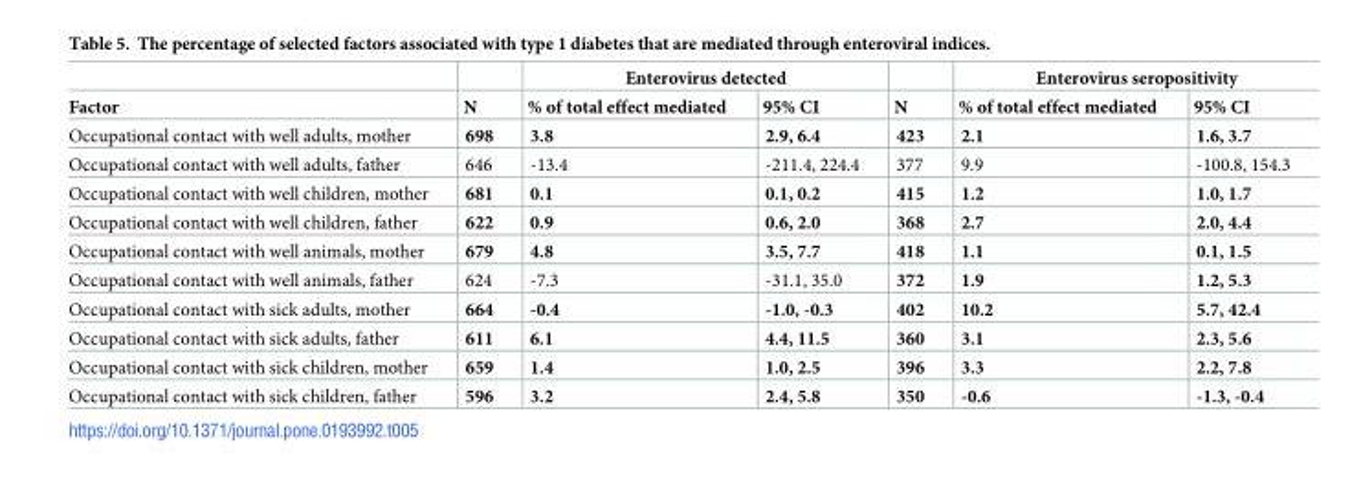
<table><thead><tr><td rowspan="2">Factor</td><td rowspan="2">N</td><td colspan="2">Enterovirus detected</td><td rowspan="2">N</td><td colspan="2">Enterovirus seropositivity</td></tr><tr><td>% of total effect mediated</td><td>95% CI</td><td>% of total effect mediated</td><td>95% CI</td></tr></thead><tbody><tr><td>Occupational contact with well adults, mother</td><td>698</td><td>3.8</td><td>2.9, 6.4</td><td>423</td><td>2.1</td><td>1.6, 3.7</td></tr><tr><td>Occupational contact with well adults, father</td><td>646</td><td>-13.4</td><td>-211.4, 224.4</td><td>377</td><td>9.9</td><td>-100.8, 154.3</td></tr><tr><td>Occupational contact with well children, mother</td><td>681</td><td>0.1</td><td>0.1, 0.2</td><td>415</td><td>1.2</td><td>1.0, 1.7</td></tr><tr><td>Occupational contact with well children, father</td><td>622</td><td>0.9</td><td>0.6, 2.0</td><td>368</td><td>2.7</td><td>2.0, 4.4</td></tr><tr><td>Occupational contact with well animals, mother</td><td>679</td><td>4.8</td><td>3.5, 7.7</td><td>418</td><td>1.1</td><td>0.1, 1.5</td></tr><tr><td>Occupational contact with well animals, father</td><td>624</td><td>-7.3</td><td>-31.1, 35.0</td><td>372</td><td>1.9</td><td>1.2, 5.3</td></tr><tr><td>Occupational contact with sick adults, mother</td><td>664</td><td>-0.4</td><td>-1.0, -0.3</td><td>402</td><td>10.2</td><td>5.7, 42.4</td></tr><tr><td>Occupational contact with sick adults, father</td><td>611</td><td>6.1</td><td>4.4, 11.5</td><td>360</td><td>3.1</td><td>2.3, 5.6</td></tr><tr><td>Occupational contact with sick children, mother</td><td>659</td><td>1.4</td><td>1.0, 2.5</td><td>396</td><td>3.3</td><td>2.2, 7.8</td></tr><tr><td>Occupational contact with sick children, father</td><td>596</td><td>3.2</td><td>2.4, 5.8</td><td>350</td><td>-0.6</td><td>-1.3, -0.4</td></tr></tbody></table>